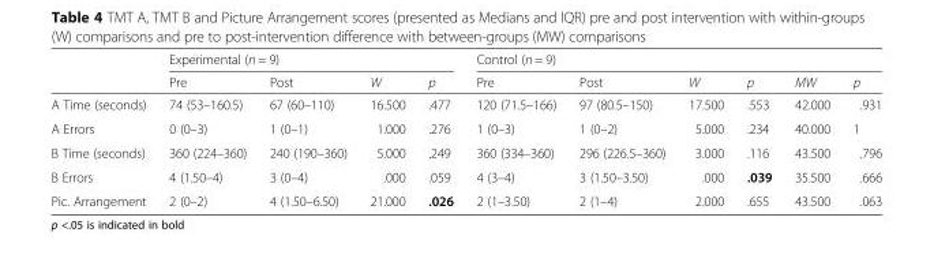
<table><thead><tr><td rowspan="2"></td><td colspan="4">Experimental (n = 9)</td><td colspan="6">Control (n = 9)</td></tr><tr><td>Pre</td><td>Post</td><td>W</td><td>p</td><td>Pre</td><td>Post</td><td>W</td><td>p</td><td>MW</td><td>p</td></tr></thead><tbody><tr><td>A Time (seconds)</td><td>74 (53–160.5)</td><td>67 (60–110)</td><td>16.500</td><td>.477</td><td>120 (71.5–166)</td><td>97 (80.5–150)</td><td>17.500</td><td>.553</td><td>42.000</td><td>.931</td></tr><tr><td>A Errors</td><td>0 (0–3)</td><td>1 (0–1)</td><td>1.000</td><td>.276</td><td>1 (0–3)</td><td>1 (0–2)</td><td>5.000</td><td>.234</td><td>40.000</td><td>1</td></tr><tr><td>B Time (seconds)</td><td>360 (224–360)</td><td>240 (190–360)</td><td>5.000</td><td>.249</td><td>360 (334–360)</td><td>296 (226.5–360)</td><td>3.000</td><td>.116</td><td>43.500</td><td>.796</td></tr><tr><td>B Errors</td><td>4 (1.50–4)</td><td>3 (0–4)</td><td>.000</td><td>.059</td><td>4 (3–4)</td><td>3 (1.50–3.50)</td><td>.000</td><td>.039</td><td>35.500</td><td>.666</td></tr><tr><td>Pic. Arrangement</td><td>2 (0–2)</td><td>4 (1.50–6.50)</td><td>21.000</td><td>.026</td><td>2 (1–3.50)</td><td>2 (1–4)</td><td>2.000</td><td>.655</td><td>43.500</td><td>.063</td></tr></tbody></table>